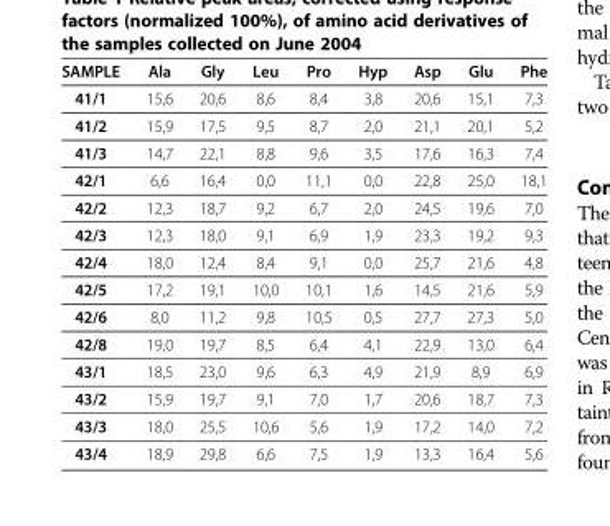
<table><thead><tr><td>SAMPLE</td><td>Ala</td><td>Gly</td><td>Leu</td><td>Pro</td><td>Hyp</td><td>Asp</td><td>Glu</td><td>Phe</td></tr></thead><tbody><tr><td>41/1</td><td>15,6</td><td>20,6</td><td>8,6</td><td>8,4</td><td>3,8</td><td>20,6</td><td>15,1</td><td>7,3</td></tr><tr><td>41/2</td><td>15,9</td><td>17,5</td><td>9,5</td><td>8,7</td><td>2,0</td><td>21,1</td><td>20,1</td><td>5,2</td></tr><tr><td>41/3</td><td>14,7</td><td>22,1</td><td>8,8</td><td>9,6</td><td>3,5</td><td>17,6</td><td>16,3</td><td>7,4</td></tr><tr><td>42/1</td><td>6,6</td><td>16,4</td><td>0,0</td><td>11,1</td><td>0,0</td><td>22,8</td><td>25,0</td><td>18,1</td></tr><tr><td>42/2</td><td>12,3</td><td>18,7</td><td>9,2</td><td>6,7</td><td>2,0</td><td>24,5</td><td>19,6</td><td>7,0</td></tr><tr><td>42/3</td><td>12,3</td><td>18,0</td><td>9,1</td><td>6,9</td><td>1,9</td><td>23,3</td><td>19,2</td><td>9,3</td></tr><tr><td>42/4</td><td>18,0</td><td>12,4</td><td>8,4</td><td>9,1</td><td>0,0</td><td>25,7</td><td>21,6</td><td>4,8</td></tr><tr><td>42/5</td><td>17,2</td><td>19,1</td><td>10,0</td><td>10,1</td><td>1,6</td><td>14,5</td><td>21,6</td><td>5,9</td></tr><tr><td>42/6</td><td>8,0</td><td>11,2</td><td>9,8</td><td>10,5</td><td>0,5</td><td>27,7</td><td>27,3</td><td>5,0</td></tr><tr><td>42/8</td><td>19,0</td><td>19,7</td><td>8,5</td><td>6,4</td><td>4,1</td><td>22,9</td><td>13,0</td><td>6,4</td></tr><tr><td>43/1</td><td>18,5</td><td>23,0</td><td>9,6</td><td>6,3</td><td>4,9</td><td>21,9</td><td>8,9</td><td>6,9</td></tr><tr><td>43/2</td><td>15,9</td><td>19,7</td><td>9,1</td><td>7,0</td><td>1,7</td><td>20,6</td><td>18,7</td><td>7,3</td></tr><tr><td>43/3</td><td>18,0</td><td>25,5</td><td>10,6</td><td>5,6</td><td>1,9</td><td>17,2</td><td>14,0</td><td>7,2</td></tr><tr><td>43/4</td><td>18,9</td><td>29,8</td><td>6,6</td><td>7,5</td><td>1,9</td><td>13,3</td><td>16,4</td><td>5,6</td></tr></tbody></table>